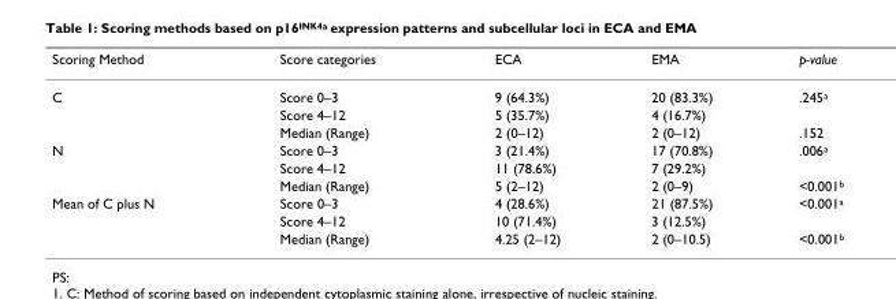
<table><thead><tr><td>Scoring Method</td><td>Score categories</td><td>ECA</td><td>EMA</td><td>p-value</td></tr></thead><tbody><tr><td rowspan="3">C</td><td>Score 0–3</td><td>9 (64.3%)</td><td>20 (83.3%)</td><td>.245<sup>a</sup></td></tr><tr><td>Score 4–12</td><td>5 (35.7%)</td><td>4 (16.7%)</td><td></td></tr><tr><td>Median (Range)</td><td>2 (0–12)</td><td>2 (0–12)</td><td>.152</td></tr><tr><td rowspan="3">N</td><td>Score 0–3</td><td>3 (21.4%)</td><td>17 (70.8%)</td><td>.006<sup>a</sup></td></tr><tr><td>Score 4–12</td><td>11 (78.6%)</td><td>7 (29.2%)</td><td></td></tr><tr><td>Median (Range)</td><td>5 (2–12)</td><td>2 (0–9)</td><td>&lt;0.001<sup>b</sup></td></tr><tr><td rowspan="3">Mean of C plus N</td><td>Score 0–3</td><td>4 (28.6%)</td><td>21 (87.5%)</td><td>&lt;0.001<sup>a</sup></td></tr><tr><td>Score 4–12</td><td>10 (71.4%)</td><td>3 (12.5%)</td><td></td></tr><tr><td>Median (Range)</td><td>4.25 (2–12)</td><td>2 (0–10.5)</td><td>&lt;0.001<sup>b</sup></td></tr></tbody></table>